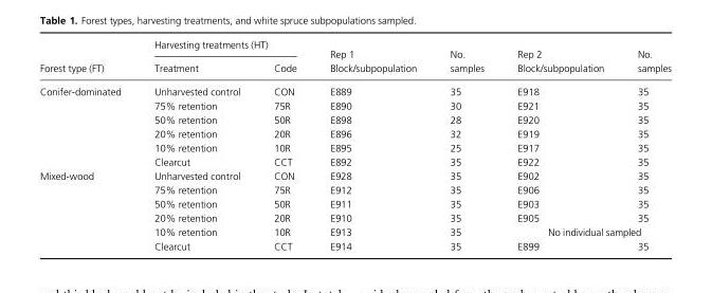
<table><thead><tr><td rowspan="2">Forest type (FT)</td><td colspan="2">Harvesting treatments (HT)</td><td rowspan="2">Rep 1 Block/subpopulation</td><td rowspan="2">No. samples</td><td rowspan="2">Rep 2 Block/subpopulation</td><td rowspan="2">No. samples</td></tr><tr><td>Treatment</td><td>Code</td></tr></thead><tbody><tr><td rowspan="6">Conifer-dominated</td><td>Unharvested control</td><td>CON</td><td>E889</td><td>35</td><td>E918</td><td>35</td></tr><tr><td>75% retention</td><td>75R</td><td>E890</td><td>30</td><td>E921</td><td>35</td></tr><tr><td>50% retention</td><td>50R</td><td>E898</td><td>28</td><td>E920</td><td>35</td></tr><tr><td>20% retention</td><td>20R</td><td>E896</td><td>32</td><td>E919</td><td>35</td></tr><tr><td>10% retention</td><td>10R</td><td>E895</td><td>25</td><td>E917</td><td>35</td></tr><tr><td>Clearcut</td><td>CCT</td><td>E892</td><td>35</td><td>E922</td><td>35</td></tr><tr><td rowspan="6">Mixed-wood</td><td>Unharvested control</td><td>CON</td><td>E928</td><td>35</td><td>E902</td><td>35</td></tr><tr><td>75% retention</td><td>75R</td><td>E912</td><td>35</td><td>E906</td><td>35</td></tr><tr><td>50% retention</td><td>50R</td><td>E911</td><td>35</td><td>E903</td><td>35</td></tr><tr><td>20% retention</td><td>20R</td><td>E910</td><td>35</td><td>E905</td><td>35</td></tr><tr><td>10% retention</td><td>10R</td><td>E913</td><td>35</td><td colspan="2">No individual sampled</td></tr><tr><td>Clearcut</td><td>CCT</td><td>E914</td><td>35</td><td>E899</td><td>35</td></tr></tbody></table>